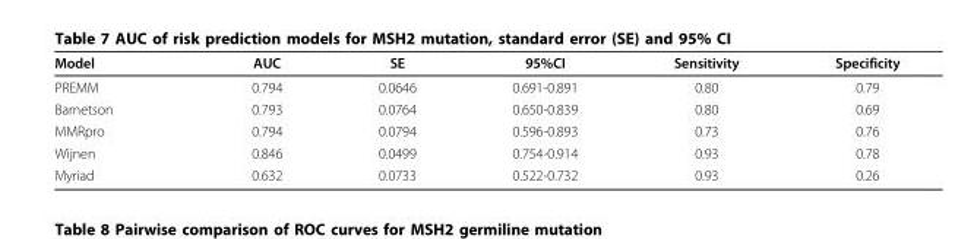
<table><thead><tr><td>Model</td><td>AUC</td><td>SE</td><td>95%CI</td><td>Sensitivity</td><td>Specificity</td></tr></thead><tbody><tr><td>PREMM</td><td>0.794</td><td>0.0646</td><td>0.691-0.891</td><td>0.80</td><td>0.79</td></tr><tr><td>Barnetson</td><td>0.793</td><td>0.0764</td><td>0.650-0.839</td><td>0.80</td><td>0.69</td></tr><tr><td>MMRpro</td><td>0.794</td><td>0.0794</td><td>0.596-0.893</td><td>0.73</td><td>0.76</td></tr><tr><td>Wijnen</td><td>0.846</td><td>0.0499</td><td>0.754-0.914</td><td>0.93</td><td>0.78</td></tr><tr><td>Myriad</td><td>0.632</td><td>0.0733</td><td>0.522-0.732</td><td>0.93</td><td>0.26</td></tr></tbody></table>